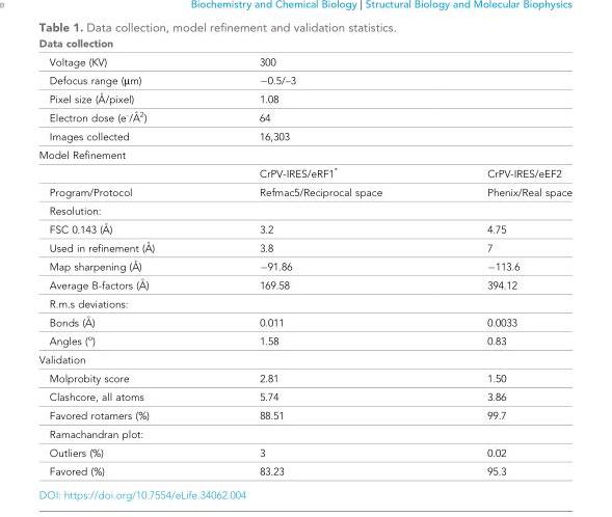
<table><thead><tr><td colspan="3">Data collection</td></tr><tr><td>Voltage (KV)</td><td>300</td><td></td></tr></thead><tbody><tr><td>Defocus range (μm)</td><td>−0.5/–3</td><td></td></tr><tr><td>Pixel size (A˚ /pixel)</td><td>1.08</td><td></td></tr><tr><td>Electron dose (e-/A˚ 2)</td><td>64</td><td></td></tr><tr><td>Images collected</td><td>16,303</td><td></td></tr><tr><td colspan="3">Model Refinement</td></tr><tr><td></td><td>CrPV-IRES/eRF1*</td><td>CrPV-IRES/eEF2</td></tr><tr><td>Program/Protocol</td><td>Refmac5/Reciprocal space</td><td>Phenix/Real space</td></tr><tr><td colspan="3">Resolution:</td></tr><tr><td>FSC 0.143 (A˚ )</td><td>3.2</td><td>4.75</td></tr><tr><td>Used in refinement (A˚ )</td><td>3.8</td><td>7</td></tr><tr><td>Map sharpening (A˚ )</td><td>−91.86</td><td>−113.6</td></tr><tr><td>Average B-factors (A˚ )</td><td>169.58</td><td>394.12</td></tr><tr><td colspan="3">R.m.s deviations:</td></tr><tr><td>Bonds (A˚ )</td><td>0.011</td><td>0.0033</td></tr><tr><td>Angles (<sup>o</sup>)</td><td>1.58</td><td>0.83</td></tr><tr><td colspan="3">Validation</td></tr><tr><td>Molprobity score</td><td>2.81</td><td>1.50</td></tr><tr><td>Clashcore, all atoms</td><td>5.74</td><td>3.86</td></tr><tr><td>Favored rotamers (%)</td><td>88.51</td><td>99.7</td></tr><tr><td colspan="3">Ramachandran plot:</td></tr><tr><td>Outliers (%)</td><td>3</td><td>0.02</td></tr><tr><td>Favored (%)</td><td>83.23</td><td>95.3</td></tr></tbody></table>